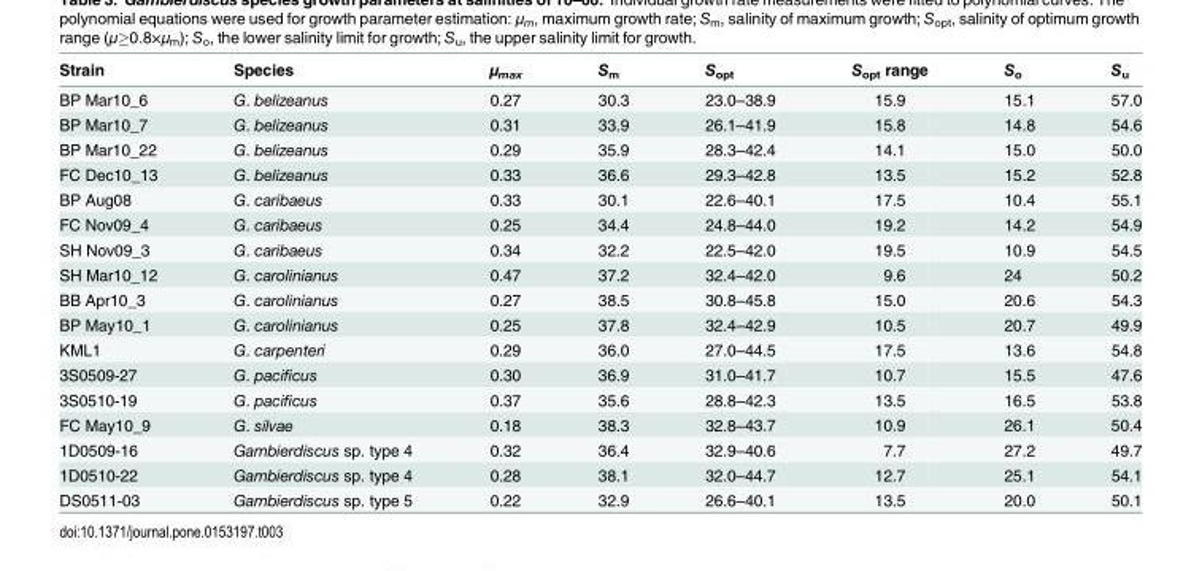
<table><thead><tr><td>Strain</td><td>Species</td><td>μ<sub>max</sub></td><td>S<sub>m</sub></td><td>S<sub>opt</sub></td><td>S<sub>opt</sub> range</td><td>S<sub>o</sub></td><td>S<sub>u</sub></td></tr></thead><tbody><tr><td>BP Mar10_6</td><td>G. belizeanus</td><td>0.27</td><td>30.3</td><td>23.0–38.9</td><td>15.9</td><td>15.1</td><td>57.0</td></tr><tr><td>BP Mar10_7</td><td>G. belizeanus</td><td>0.31</td><td>33.9</td><td>26.1–41.9</td><td>15.8</td><td>14.8</td><td>54.6</td></tr><tr><td>BP Mar10_22</td><td>G. belizeanus</td><td>0.29</td><td>35.9</td><td>28.3–42.4</td><td>14.1</td><td>15.0</td><td>50.0</td></tr><tr><td>FC Dec10_13</td><td>G. belizeanus</td><td>0.33</td><td>36.6</td><td>29.3–42.8</td><td>13.5</td><td>15.2</td><td>52.8</td></tr><tr><td>BP Aug08</td><td>G. caribaeus</td><td>0.33</td><td>30.1</td><td>22.6–40.1</td><td>17.5</td><td>10.4</td><td>55.1</td></tr><tr><td>FC Nov09_4</td><td>G. caribaeus</td><td>0.25</td><td>34.4</td><td>24.8–44.0</td><td>19.2</td><td>14.2</td><td>54.9</td></tr><tr><td>SH Nov09_3</td><td>G. caribaeus</td><td>0.34</td><td>32.2</td><td>22.5–42.0</td><td>19.5</td><td>10.9</td><td>54.5</td></tr><tr><td>SH Mar10_12</td><td>G. carolinianus</td><td>0.47</td><td>37.2</td><td>32.4–42.0</td><td>9.6</td><td>24</td><td>50.2</td></tr><tr><td>BB Apr10_3</td><td>G. carolinianus</td><td>0.27</td><td>38.5</td><td>30.8–45.8</td><td>15.0</td><td>20.6</td><td>54.3</td></tr><tr><td>BP May10_1</td><td>G. carolinianus</td><td>0.25</td><td>37.8</td><td>32.4–42.9</td><td>10.5</td><td>20.7</td><td>49.9</td></tr><tr><td>KML1</td><td>G. carpenteri</td><td>0.29</td><td>36.0</td><td>27.0–44.5</td><td>17.5</td><td>13.6</td><td>54.8</td></tr><tr><td>3S0509-27</td><td>G. pacificus</td><td>0.30</td><td>36.9</td><td>31.0–41.7</td><td>10.7</td><td>15.5</td><td>47.6</td></tr><tr><td>3S0510-19</td><td>G. pacificus</td><td>0.37</td><td>35.6</td><td>28.8–42.3</td><td>13.5</td><td>16.5</td><td>53.8</td></tr><tr><td>FC May10_9</td><td>G. silvae</td><td>0.18</td><td>38.3</td><td>32.8–43.7</td><td>10.9</td><td>26.1</td><td>50.4</td></tr><tr><td>1D0509-16</td><td>Gambierdiscus sp. type 4</td><td>0.32</td><td>36.4</td><td>32.9–40.6</td><td>7.7</td><td>27.2</td><td>49.7</td></tr><tr><td>1D0510-22</td><td>Gambierdiscus sp. type 4</td><td>0.28</td><td>38.1</td><td>32.0–44.7</td><td>12.7</td><td>25.1</td><td>54.1</td></tr><tr><td>DS0511-03</td><td>Gambierdiscus sp. type 5</td><td>0.22</td><td>32.9</td><td>26.6–40.1</td><td>13.5</td><td>20.0</td><td>50.1</td></tr></tbody></table>